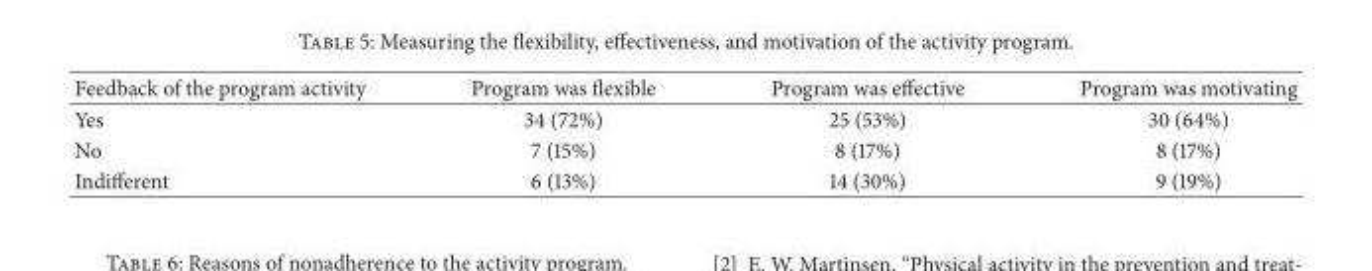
<table><thead><tr><td>Feedback of the program activity</td><td>Program was flexible</td><td>Program was effective</td><td>Program was motivating</td></tr></thead><tbody><tr><td>Yes</td><td>34 (72%)</td><td>25 (53%)</td><td>30 (64%)</td></tr><tr><td>No</td><td>7 (15%)</td><td>8 (17%)</td><td>8 (17%)</td></tr><tr><td>Indifferent</td><td>6 (13%)</td><td>14 (30%)</td><td>9 (19%)</td></tr></tbody></table>